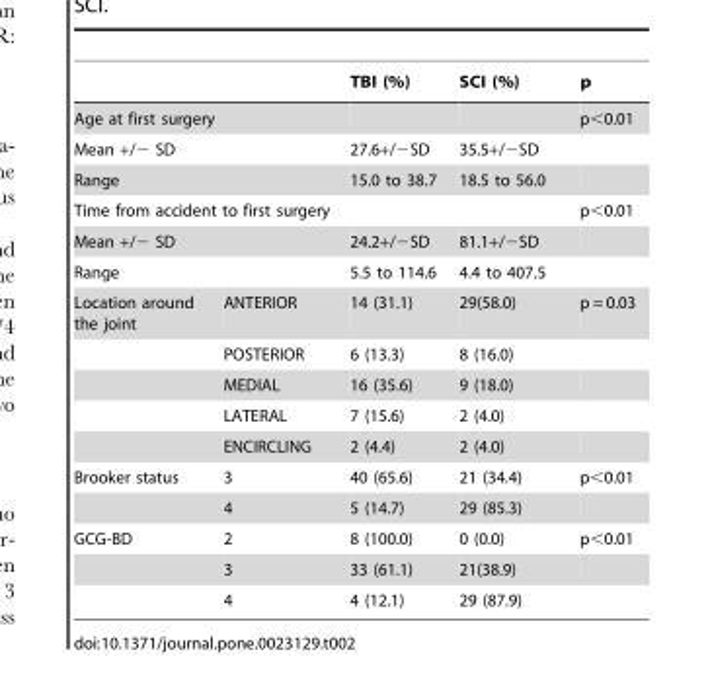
<table><thead><tr><td></td><td></td><td>TBI (%)</td><td>SCI (%)</td><td>p</td></tr></thead><tbody><tr><td colspan="2">Age at first surgery</td><td></td><td></td><td>p&lt;0.01</td></tr><tr><td colspan="2">Mean +/− SD</td><td>27.6+/−SD</td><td>35.5+/−SD</td><td></td></tr><tr><td colspan="2">Range</td><td>15.0 to 38.7</td><td>18.5 to 56.0</td><td></td></tr><tr><td colspan="2">Time from accident to first surgery</td><td></td><td></td><td>p&lt;0.01</td></tr><tr><td colspan="2">Mean +/− SD</td><td>24.2+/−SD</td><td>81.1+/−SD</td><td></td></tr><tr><td colspan="2">Range</td><td>5.5 to 114.6</td><td>4.4 to 407.5</td><td></td></tr><tr><td rowspan="5">Location around the joint</td><td>ANTERIOR</td><td>14 (31.1)</td><td>29(58.0)</td><td>p = 0.03</td></tr><tr><td>POSTERIOR</td><td>6 (13.3)</td><td>8 (16.0)</td><td></td></tr><tr><td>MEDIAL</td><td>16 (35.6)</td><td>9 (18.0)</td><td></td></tr><tr><td>LATERAL</td><td>7 (15.6)</td><td>2 (4.0)</td><td></td></tr><tr><td>ENCIRCLING</td><td>2 (4.4)</td><td>2 (4.0)</td><td></td></tr><tr><td rowspan="2">Brooker status</td><td>3</td><td>40 (65.6)</td><td>21 (34.4)</td><td>p&lt;0.01</td></tr><tr><td>4</td><td>5 (14.7)</td><td>29 (85.3)</td><td></td></tr><tr><td rowspan="3">GCG-BD</td><td>2</td><td>8 (100.0)</td><td>0 (0.0)</td><td>p&lt;0.01</td></tr><tr><td>3</td><td>33 (61.1)</td><td>21(38.9)</td><td></td></tr><tr><td>4</td><td>4 (12.1)</td><td>29 (87.9)</td><td></td></tr></tbody></table>